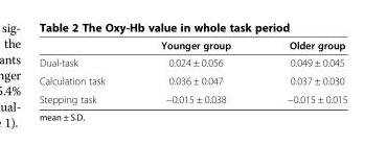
<table><thead><tr><td></td><td>Younger group</td><td>Older group</td></tr></thead><tbody><tr><td>Dual-task</td><td>0.024 ± 0.056</td><td>0.049 ± 0.045</td></tr><tr><td>Calculation task</td><td>0.036 ± 0.047</td><td>0.037 ± 0.030</td></tr><tr><td>Stepping task</td><td>−0.015 ± 0.038</td><td>−0.015 ± 0.015</td></tr></tbody></table>